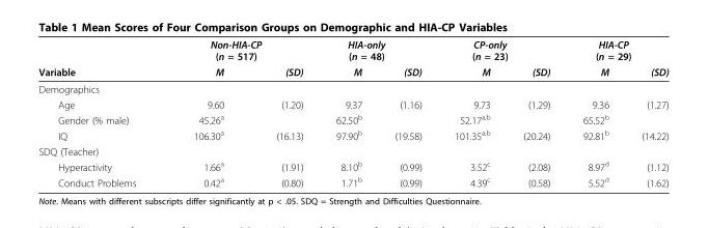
<table><thead><tr><td rowspan="2">Variable</td><td colspan="2">Non-HIA-CP (n = 517)</td><td colspan="2">HIA-only (n = 48)</td><td colspan="2">CP-only (n = 23)</td><td colspan="2">HIA-CP (n = 29)</td></tr><tr><td>M</td><td>(SD)</td><td>M</td><td>(SD)</td><td>M</td><td>(SD)</td><td>M</td><td>(SD)</td></tr></thead><tbody><tr><td colspan="9">Demographics</td></tr><tr><td>Age</td><td>9.60</td><td>(1.20)</td><td>9.37</td><td>(1.16)</td><td>9.73</td><td>(1.29)</td><td>9.36</td><td>(1.27)</td></tr><tr><td>Gender (% male)</td><td>45.26<sup>a</sup></td><td></td><td>62.50<sup>b</sup></td><td></td><td>52.17<sup>a,b</sup></td><td></td><td>65.52<sup>b</sup></td><td></td></tr><tr><td>IQ</td><td>106.30<sup>a</sup></td><td>(16.13)</td><td>97.90<sup>b</sup></td><td>(19.58)</td><td>101.35<sup>a,b</sup></td><td>(20.24)</td><td>92.81<sup>b</sup></td><td>(14.22)</td></tr><tr><td colspan="9">SDQ (Teacher)</td></tr><tr><td>Hyperactivity</td><td>1.66<sup>a</sup></td><td>(1.91)</td><td>8.10<sup>b</sup></td><td>(0.99)</td><td>3.52<sup>c</sup></td><td>(2.08)</td><td>8.97<sup>d</sup></td><td>(1.12)</td></tr><tr><td>Conduct Problems</td><td>0.42<sup>a</sup></td><td>(0.80)</td><td>1.71<sup>b</sup></td><td>(0.99)</td><td>4.39<sup>c</sup></td><td>(0.58)</td><td>5.52<sup>d</sup></td><td>(1.62)</td></tr></tbody></table>